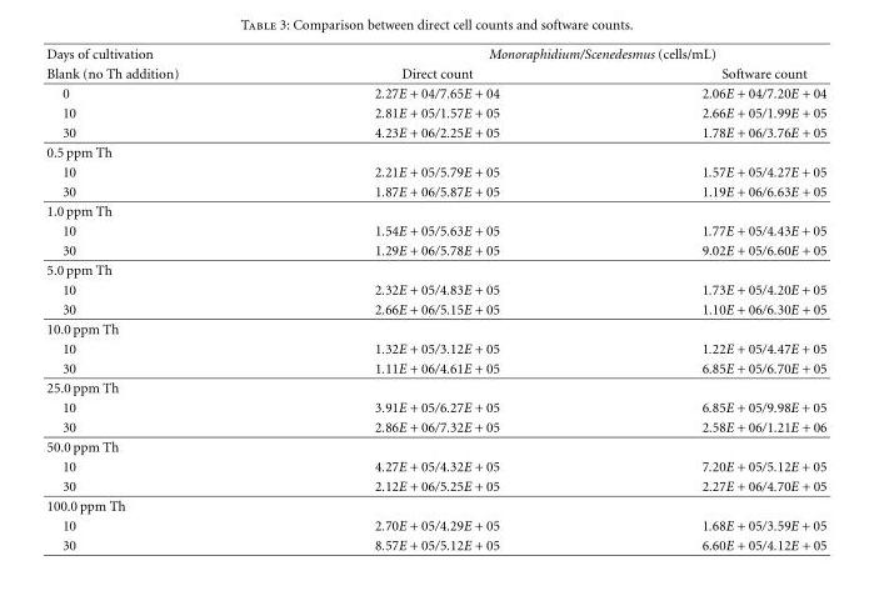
<table><thead><tr><td rowspan="2">Days of cultivation Blank (no Th addition)</td><td colspan="2">Monoraphidium/Scenedesmus (cells/mL)</td></tr><tr><td>Direct count</td><td>Software count</td></tr></thead><tbody><tr><td>0</td><td>2.27E + 04/7.65E + 04</td><td>2.06E + 04/7.20E + 04</td></tr><tr><td>10</td><td>2.81E + 05/1.57E + 05</td><td>2.66E + 05/1.99E + 05</td></tr><tr><td>30</td><td>4.23E + 06/2.25E + 05</td><td>1.78E + 06/3.76E + 05</td></tr><tr><td colspan="3">0.5 ppm Th</td></tr><tr><td>10</td><td>2.21E + 05/5.79E + 05</td><td>1.57E + 05/4.27E + 05</td></tr><tr><td>30</td><td>1.87E + 06/5.87E + 05</td><td>1.19E + 06/6.63E + 05</td></tr><tr><td colspan="3">1.0 ppm Th</td></tr><tr><td>10</td><td>1.54E + 05/5.63E + 05</td><td>1.77E + 05/4.43E + 05</td></tr><tr><td>30</td><td>1.29E + 06/5.78E + 05</td><td>9.02E + 05/6.60E + 05</td></tr><tr><td colspan="3">5.0 ppm Th</td></tr><tr><td>10</td><td>2.32E + 05/4.83E + 05</td><td>1.73E + 05/4.20E + 05</td></tr><tr><td>30</td><td>2.66E + 06/5.15E + 05</td><td>1.10E + 06/6.30E + 05</td></tr><tr><td colspan="3">10.0 ppm Th</td></tr><tr><td>10</td><td>1.32E + 05/3.12E + 05</td><td>1.22E + 05/4.47E + 05</td></tr><tr><td>30</td><td>1.11E + 06/4.61E + 05</td><td>6.85E + 05/6.70E + 05</td></tr><tr><td colspan="3">25.0 ppm Th</td></tr><tr><td>10</td><td>3.91E + 05/6.27E + 05</td><td>6.85E + 05/9.98E + 05</td></tr><tr><td>30</td><td>2.86E + 06/7.32E + 05</td><td>2.58E + 06/1.21E + 06</td></tr><tr><td colspan="3">50.0 ppm Th</td></tr><tr><td>10</td><td>4.27E + 05/4.32E + 05</td><td>7.20E + 05/5.12E + 05</td></tr><tr><td>30</td><td>2.12E + 06/5.25E + 05</td><td>2.27E + 06/4.70E + 05</td></tr><tr><td colspan="3">100.0 ppm Th</td></tr><tr><td>10</td><td>2.70E + 05/4.29E + 05</td><td>1.68E + 05/3.59E + 05</td></tr><tr><td>30</td><td>8.57E + 05/5.12E + 05</td><td>6.60E + 05/4.12E + 05</td></tr></tbody></table>